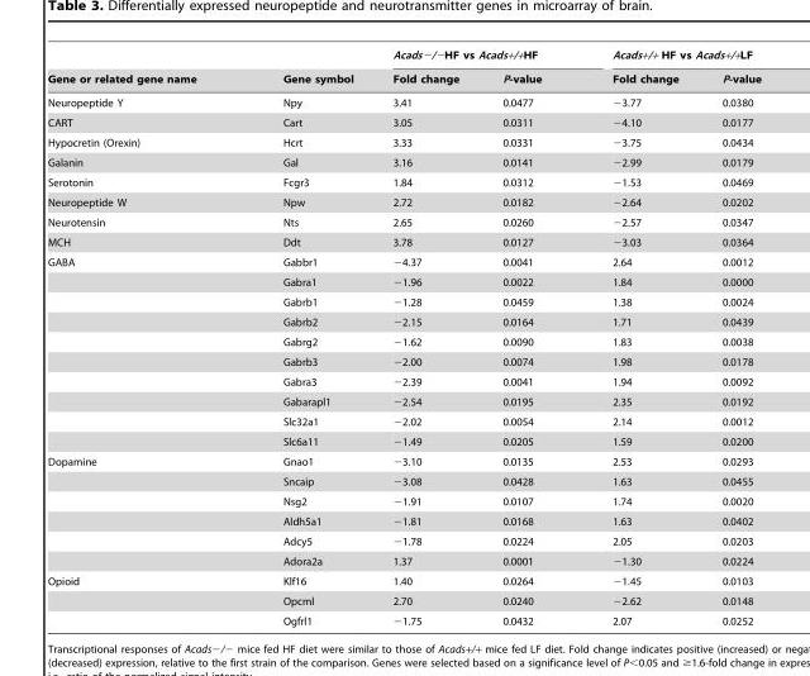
<table><thead><tr><td rowspan="2">Gene or related gene name</td><td rowspan="2">Gene symbol</td><td colspan="2">Acads−/−HF vs Acads+/+HF</td><td colspan="2">Acads+/+ HF vs Acads+/+LF</td></tr><tr><td>Fold change</td><td>P-value</td><td>Fold change</td><td>P-value</td></tr></thead><tbody><tr><td>Neuropeptide Y</td><td>Npy</td><td>3.41</td><td>0.0477</td><td>−3.77</td><td>0.0380</td></tr><tr><td>CART</td><td>Cart</td><td>3.05</td><td>0.0311</td><td>−4.10</td><td>0.0177</td></tr><tr><td>Hypocretin (Orexin)</td><td>Hcrt</td><td>3.33</td><td>0.0331</td><td>−3.75</td><td>0.0434</td></tr><tr><td>Galanin</td><td>Gal</td><td>3.16</td><td>0.0141</td><td>−2.99</td><td>0.0179</td></tr><tr><td>Serotonin</td><td>Fcgr3</td><td>1.84</td><td>0.0312</td><td>−1.53</td><td>0.0469</td></tr><tr><td>Neuropeptide W</td><td>Npw</td><td>2.72</td><td>0.0182</td><td>−2.64</td><td>0.0202</td></tr><tr><td>Neurotensin</td><td>Nts</td><td>2.65</td><td>0.0260</td><td>−2.57</td><td>0.0347</td></tr><tr><td>MCH</td><td>Ddt</td><td>3.78</td><td>0.0127</td><td>−3.03</td><td>0.0364</td></tr><tr><td rowspan="10">GABA</td><td>Gabbr1</td><td>−4.37</td><td>0.0041</td><td>2.64</td><td>0.0012</td></tr><tr><td>Gabra1</td><td>−1.96</td><td>0.0022</td><td>1.84</td><td>0.0000</td></tr><tr><td>Gabrb1</td><td>−1.28</td><td>0.0459</td><td>1.38</td><td>0.0024</td></tr><tr><td>Gabrb2</td><td>−2.15</td><td>0.0164</td><td>1.71</td><td>0.0439</td></tr><tr><td>Gabrg2</td><td>−1.62</td><td>0.0090</td><td>1.83</td><td>0.0038</td></tr><tr><td>Gabrb3</td><td>−2.00</td><td>0.0074</td><td>1.98</td><td>0.0178</td></tr><tr><td>Gabra3</td><td>−2.39</td><td>0.0041</td><td>1.94</td><td>0.0092</td></tr><tr><td>Gabarapl1</td><td>−2.54</td><td>0.0195</td><td>2.35</td><td>0.0192</td></tr><tr><td>Slc32a1</td><td>−2.02</td><td>0.0054</td><td>2.14</td><td>0.0012</td></tr><tr><td>Slc6a11</td><td>−1.49</td><td>0.0205</td><td>1.59</td><td>0.0200</td></tr><tr><td rowspan="6">Dopamine</td><td>Gnao1</td><td>−3.10</td><td>0.0135</td><td>2.53</td><td>0.0293</td></tr><tr><td>Sncaip</td><td>−3.08</td><td>0.0428</td><td>1.63</td><td>0.0455</td></tr><tr><td>Nsg2</td><td>−1.91</td><td>0.0107</td><td>1.74</td><td>0.0020</td></tr><tr><td>Aldh5a1</td><td>−1.81</td><td>0.0168</td><td>1.63</td><td>0.0402</td></tr><tr><td>Adcy5</td><td>−1.78</td><td>0.0224</td><td>2.05</td><td>0.0203</td></tr><tr><td>Adora2a</td><td>1.37</td><td>0.0001</td><td>−1.30</td><td>0.0224</td></tr><tr><td rowspan="3">Opioid</td><td>Klf16</td><td>1.40</td><td>0.0264</td><td>−1.45</td><td>0.0103</td></tr><tr><td>Opcml</td><td>2.70</td><td>0.0240</td><td>−2.62</td><td>0.0148</td></tr><tr><td>Ogfrl1</td><td>−1.75</td><td>0.0432</td><td>2.07</td><td>0.0252</td></tr></tbody></table>